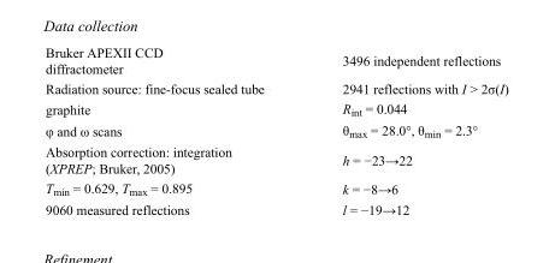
<table><tbody><tr><td>Bruker APEXII CCD diffractometer</td><td>3496 independent reflections</td></tr><tr><td>Radiation source: fine-focus sealed tube</td><td>2941 reflections with I &gt; 2σ(I)</td></tr><tr><td>graphite</td><td>R<sub>int</sub> = 0.044</td></tr><tr><td>φ and ω scans</td><td>θ<sub>max</sub> = 28.0°, θ<sub>min</sub> = 2.3°</td></tr><tr><td>Absorption correction: integration (XPREP; Bruker, 2005)</td><td>h = −23→22</td></tr><tr><td>T<sub>min</sub> = 0.629, T<sub>max</sub> = 0.895</td><td>k = −8→6</td></tr><tr><td>9060 measured reflections</td><td>l = −19→12</td></tr></tbody></table>